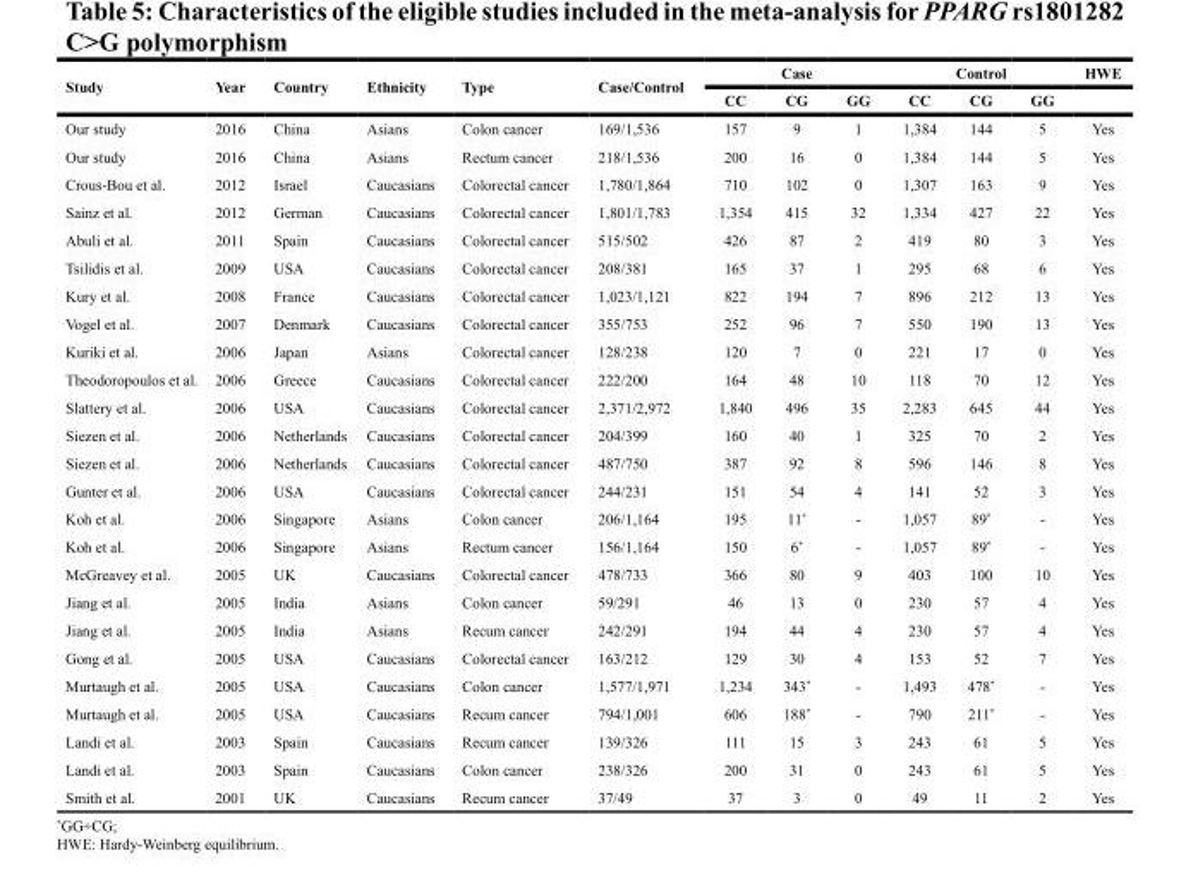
<table><thead><tr><td rowspan="2">Study</td><td rowspan="2">Year</td><td rowspan="2">Country</td><td rowspan="2">Ethnicity</td><td rowspan="2">Type</td><td rowspan="2">Case/Control</td><td colspan="3">Case</td><td colspan="3">Control</td><td rowspan="2">HWE</td></tr><tr><td>CC</td><td>CG</td><td>GG</td><td>CC</td><td>CG</td><td>GG</td></tr></thead><tbody><tr><td>Our study</td><td>2016</td><td>China</td><td>Asians</td><td>Colon cancer</td><td>169/1,536</td><td>157</td><td>9</td><td>1</td><td>1,384</td><td>144</td><td>5</td><td>Yes</td></tr><tr><td>Our study</td><td>2016</td><td>China</td><td>Asians</td><td>Rectum cancer</td><td>218/1,536</td><td>200</td><td>16</td><td>0</td><td>1,384</td><td>144</td><td>5</td><td>Yes</td></tr><tr><td>Crous-Bou et al.</td><td>2012</td><td>Israel</td><td>Caucasians</td><td>Colorectal cancer</td><td>1,780/1,864</td><td>710</td><td>102</td><td>0</td><td>1,307</td><td>163</td><td>9</td><td>Yes</td></tr><tr><td>Sainz et al.</td><td>2012</td><td>German</td><td>Caucasians</td><td>Colorectal cancer</td><td>1,801/1,783</td><td>1,354</td><td>415</td><td>32</td><td>1,334</td><td>427</td><td>22</td><td>Yes</td></tr><tr><td>Abuli et al.</td><td>2011</td><td>Spain</td><td>Caucasians</td><td>Colorectal cancer</td><td>515/502</td><td>426</td><td>87</td><td>2</td><td>419</td><td>80</td><td>3</td><td>Yes</td></tr><tr><td>Tsilidis et al.</td><td>2009</td><td>USA</td><td>Caucasians</td><td>Colorectal cancer</td><td>208/381</td><td>165</td><td>37</td><td>1</td><td>295</td><td>68</td><td>6</td><td>Yes</td></tr><tr><td>Kury et al.</td><td>2008</td><td>France</td><td>Caucasians</td><td>Colorectal cancer</td><td>1,023/1,121</td><td>822</td><td>194</td><td>7</td><td>896</td><td>212</td><td>13</td><td>Yes</td></tr><tr><td>Vogel et al.</td><td>2007</td><td>Denmark</td><td>Caucasians</td><td>Colorectal cancer</td><td>355/753</td><td>252</td><td>96</td><td>7</td><td>550</td><td>190</td><td>13</td><td>Yes</td></tr><tr><td>Kuriki et al.</td><td>2006</td><td>Japan</td><td>Asians</td><td>Colorectal cancer</td><td>128/238</td><td>120</td><td>7</td><td>0</td><td>221</td><td>17</td><td>0</td><td>Yes</td></tr><tr><td>Theodoropoulos et al.</td><td>2006</td><td>Greece</td><td>Caucasians</td><td>Colorectal cancer</td><td>222/200</td><td>164</td><td>48</td><td>10</td><td>118</td><td>70</td><td>12</td><td>Yes</td></tr><tr><td>Slattery et al.</td><td>2006</td><td>USA</td><td>Caucasians</td><td>Colorectal cancer</td><td>2,371/2,972</td><td>1,840</td><td>496</td><td>35</td><td>2,283</td><td>645</td><td>44</td><td>Yes</td></tr><tr><td>Siezen et al.</td><td>2006</td><td>Netherlands</td><td>Caucasians</td><td>Colorectal cancer</td><td>204/399</td><td>160</td><td>40</td><td>1</td><td>325</td><td>70</td><td>2</td><td>Yes</td></tr><tr><td>Siezen et al.</td><td>2006</td><td>Netherlands</td><td>Caucasians</td><td>Colorectal cancer</td><td>487/750</td><td>387</td><td>92</td><td>8</td><td>596</td><td>146</td><td>8</td><td>Yes</td></tr><tr><td>Gunter et al.</td><td>2006</td><td>USA</td><td>Caucasians</td><td>Colorectal cancer</td><td>244/231</td><td>151</td><td>54</td><td>4</td><td>141</td><td>52</td><td>3</td><td>Yes</td></tr><tr><td>Koh et al.</td><td>2006</td><td>Singapore</td><td>Asians</td><td>Colon cancer</td><td>206/1,164</td><td>195</td><td>11*</td><td>-</td><td>1,057</td><td>89*</td><td>-</td><td>Yes</td></tr><tr><td>Koh et al.</td><td>2006</td><td>Singapore</td><td>Asians</td><td>Rectum cancer</td><td>156/1,164</td><td>150</td><td>6*</td><td>-</td><td>1,057</td><td>89*</td><td>-</td><td>Yes</td></tr><tr><td>McGreavey et al.</td><td>2005</td><td>UK</td><td>Caucasians</td><td>Colorectal cancer</td><td>478/733</td><td>366</td><td>80</td><td>9</td><td>403</td><td>100</td><td>10</td><td>Yes</td></tr><tr><td>Jiang et al.</td><td>2005</td><td>India</td><td>Asians</td><td>Colon cancer</td><td>59/291</td><td>46</td><td>13</td><td>0</td><td>230</td><td>57</td><td>4</td><td>Yes</td></tr><tr><td>Jiang et al.</td><td>2005</td><td>India</td><td>Asians</td><td>Recum cancer</td><td>242/291</td><td>194</td><td>44</td><td>4</td><td>230</td><td>57</td><td>4</td><td>Yes</td></tr><tr><td>Gong et al.</td><td>2005</td><td>USA</td><td>Caucasians</td><td>Colorectal cancer</td><td>163/212</td><td>129</td><td>30</td><td>4</td><td>153</td><td>52</td><td>7</td><td>Yes</td></tr><tr><td>Murtaugh et al.</td><td>2005</td><td>USA</td><td>Caucasians</td><td>Colon cancer</td><td>1,577/1,971</td><td>1,234</td><td>343*</td><td>-</td><td>1,493</td><td>478*</td><td>-</td><td>Yes</td></tr><tr><td>Murtaugh et al.</td><td>2005</td><td>USA</td><td>Caucasians</td><td>Recum cancer</td><td>794/1,001</td><td>606</td><td>188*</td><td>-</td><td>790</td><td>211*</td><td>-</td><td>Yes</td></tr><tr><td>Landi et al.</td><td>2003</td><td>Spain</td><td>Caucasians</td><td>Recum cancer</td><td>139/326</td><td>111</td><td>15</td><td>3</td><td>243</td><td>61</td><td>5</td><td>Yes</td></tr><tr><td>Landi et al.</td><td>2003</td><td>Spain</td><td>Caucasians</td><td>Colon cancer</td><td>238/326</td><td>200</td><td>31</td><td>0</td><td>243</td><td>61</td><td>5</td><td>Yes</td></tr><tr><td>Smith et al.</td><td>2001</td><td>UK</td><td>Caucasians</td><td>Recum cancer</td><td>37/49</td><td>37</td><td>3</td><td>0</td><td>49</td><td>11</td><td>2</td><td>Yes</td></tr></tbody></table>